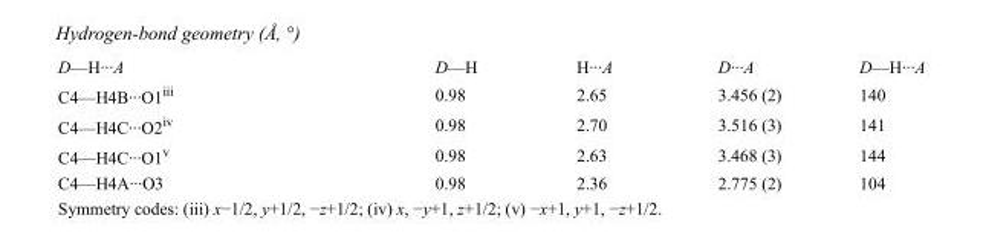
<table><tbody><tr><td>D—H···A</td><td>D—H</td><td>H···A</td><td>D···A</td><td>D—H···A</td></tr><tr><td>C4—H4B···O1<sup>iii</sup></td><td>0.98</td><td>2.65</td><td>3.456 (2)</td><td>140</td></tr><tr><td>C4—H4C···O2<sup>iv</sup></td><td>0.98</td><td>2.70</td><td>3.516 (3)</td><td>141</td></tr><tr><td>C4—H4C···O1<sup>v</sup></td><td>0.98</td><td>2.63</td><td>3.468 (3)</td><td>144</td></tr><tr><td>C4—H4A···O3</td><td>0.98</td><td>2.36</td><td>2.775 (2)</td><td>104</td></tr></tbody></table>